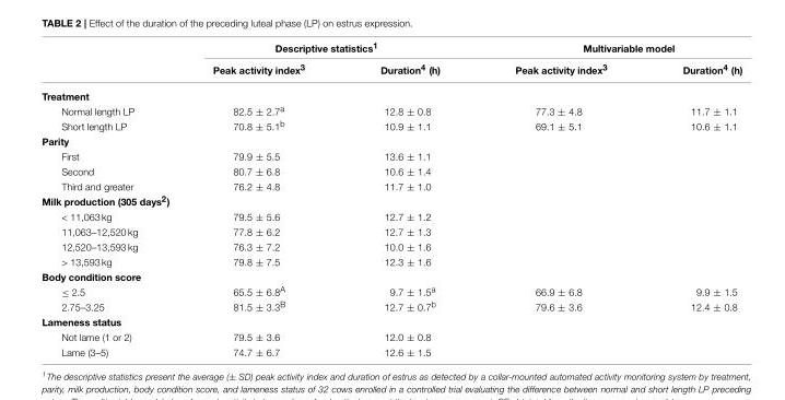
<table><thead><tr><td rowspan="2"></td><td colspan="2">Descriptive statistics<sup>1</sup></td><td colspan="2">Multivariable model</td></tr><tr><td>Peak activity index<sup>3</sup></td><td>Duration<sup>4</sup> (h)</td><td>Peak activity index<sup>3</sup></td><td>Duration<sup>4</sup> (h)</td></tr></thead><tbody><tr><td colspan="5">Treatment</td></tr><tr><td>Normal length LP</td><td>82.5 ± 2.7<sup>a</sup></td><td>12.8 ± 0.8</td><td>77.3 ± 4.8</td><td>11.7 ± 1.1</td></tr><tr><td>Short length LP</td><td>70.8 ± 5.1<sup>b</sup></td><td>10.9 ± 1.1</td><td>69.1 ± 5.1</td><td>10.6 ± 1.1</td></tr><tr><td colspan="5">Parity</td></tr><tr><td>First</td><td>79.9 ± 5.5</td><td>13.6 ± 1.1</td><td></td><td></td></tr><tr><td>Second</td><td>80.7 ± 6.8</td><td>10.6 ± 1.4</td><td></td><td></td></tr><tr><td>Third and greater</td><td>76.2 ± 4.8</td><td>11.7 ± 1.0</td><td></td><td></td></tr><tr><td colspan="5">Milk production (305 days<sup>2</sup>)</td></tr><tr><td>&lt; 11,063 kg</td><td>79.5 ± 5.6</td><td>12.7 ± 1.2</td><td></td><td></td></tr><tr><td>11,063–12,520 kg</td><td>77.8 ± 6.2</td><td>12.7 ± 1.3</td><td></td><td></td></tr><tr><td>12,520–13,593 kg</td><td>76.3 ± 7.2</td><td>10.0 ± 1.6</td><td></td><td></td></tr><tr><td>&gt; 13,593 kg</td><td>79.8 ± 7.5</td><td>12.3 ± 1.6</td><td></td><td></td></tr><tr><td colspan="5">Body condition score</td></tr><tr><td>≤ 2.5</td><td>65.5 ± 6.8<sup>A</sup></td><td>9.7 ± 1.5<sup>a</sup></td><td>66.9 ± 6.8</td><td>9.9 ± 1.5</td></tr><tr><td>2.75–3.25</td><td>81.5 ± 3.3<sup>B</sup></td><td>12.7 ± 0.7<sup>b</sup></td><td>79.6 ± 3.6</td><td>12.4 ± 0.8</td></tr><tr><td colspan="5">Lameness status</td></tr><tr><td>Not lame (1 or 2)</td><td>79.5 ± 3.6</td><td>12.0 ± 0.8</td><td></td><td></td></tr><tr><td>Lame (3–5)</td><td>74.7 ± 6.7</td><td>12.6 ± 1.5</td><td></td><td></td></tr></tbody></table>